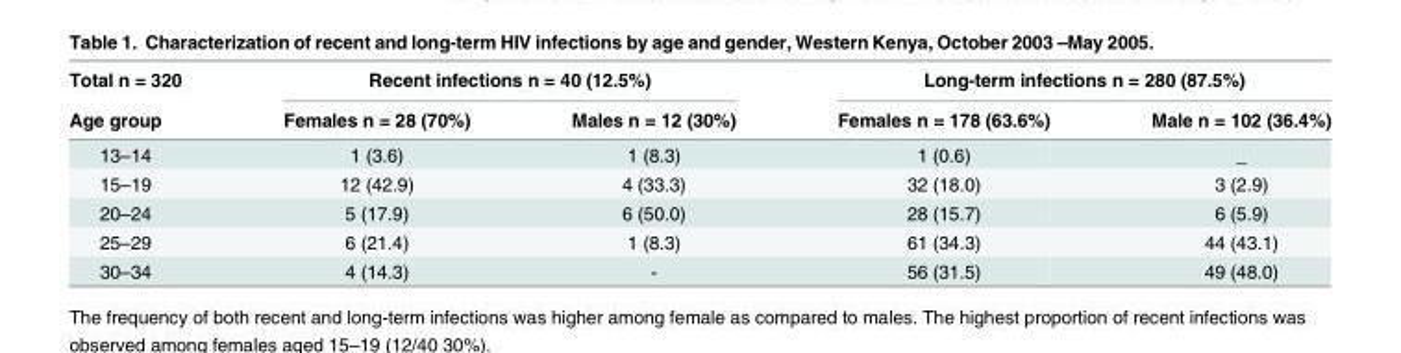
<table><thead><tr><td rowspan="2">Total n = 320 Age group</td><td colspan="2">Recent infections n = 40 (12.5%)</td><td colspan="2">Long-term infections n = 280 (87.5%)</td></tr><tr><td>Females n = 28 (70%)</td><td>Males n = 12 (30%)</td><td>Females n = 178 (63.6%)</td><td>Male n = 102 (36.4%)</td></tr></thead><tbody><tr><td>13–14</td><td>1 (3.6)</td><td>1 (8.3)</td><td>1 (0.6)</td><td>_</td></tr><tr><td>15–19</td><td>12 (42.9)</td><td>4 (33.3)</td><td>32 (18.0)</td><td>3 (2.9)</td></tr><tr><td>20–24</td><td>5 (17.9)</td><td>6 (50.0)</td><td>28 (15.7)</td><td>6 (5.9)</td></tr><tr><td>25–29</td><td>6 (21.4)</td><td>1 (8.3)</td><td>61 (34.3)</td><td>44 (43.1)</td></tr><tr><td>30–34</td><td>4 (14.3)</td><td>-</td><td>56 (31.5)</td><td>49 (48.0)</td></tr></tbody></table>